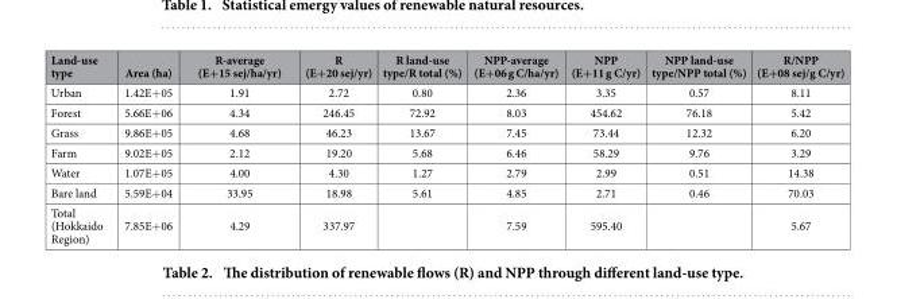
<table><thead><tr><td>Land-use type</td><td>Area (ha)</td><td>R-average (E+15 sej/ha/yr)</td><td>R (E+20 sej/yr)</td><td>R land-use type/R total (%)</td><td>NPP-average (E+06 g C/ha/yr)</td><td>NPP (E+11 g C/yr)</td><td>NPP land-use type/NPP total (%)</td><td>R/NPP (E+08 sej/g C/yr)</td></tr></thead><tbody><tr><td>Urban</td><td>1.42E+ 05</td><td>1.91</td><td>2.72</td><td>0.80</td><td>2.36</td><td>3.35</td><td>0.57</td><td>8.11</td></tr><tr><td>Forest</td><td>5.66E+ 06</td><td>4.34</td><td>246.45</td><td>72.92</td><td>8.03</td><td>454.62</td><td>76.18</td><td>5.42</td></tr><tr><td>Grass</td><td>9.86E+ 05</td><td>4.68</td><td>46.23</td><td>13.67</td><td>7.45</td><td>73.44</td><td>12.32</td><td>6.20</td></tr><tr><td>Farm</td><td>9.02E+ 05</td><td>2.12</td><td>19.20</td><td>5.68</td><td>6.46</td><td>58.29</td><td>9.76</td><td>3.29</td></tr><tr><td>Water</td><td>1.07E+ 05</td><td>4.00</td><td>4.30</td><td>1.27</td><td>2.79</td><td>2.99</td><td>0.51</td><td>14.38</td></tr><tr><td>Bare land</td><td>5.59E+ 04</td><td>33.95</td><td>18.98</td><td>5.61</td><td>4.85</td><td>2.71</td><td>0.46</td><td>70.03</td></tr><tr><td>Total (Hokkaido Region)</td><td>7.85E+ 06</td><td>4.29</td><td>337.97</td><td></td><td>7.59</td><td>595.40</td><td></td><td>5.67</td></tr></tbody></table>